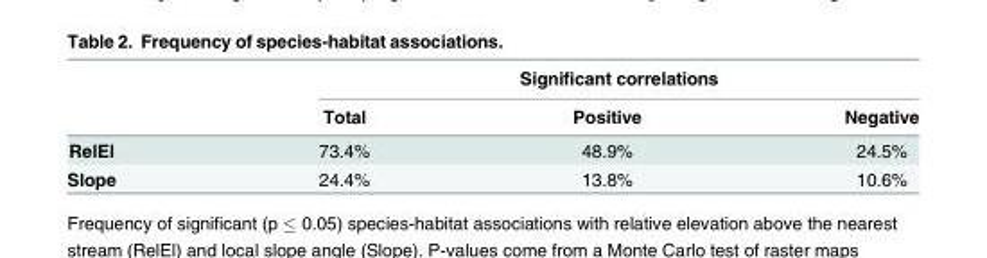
<table><thead><tr><td rowspan="2"></td><td colspan="3">Significant correlations</td></tr><tr><td>Total</td><td>Positive</td><td>Negative</td></tr></thead><tbody><tr><td>RelEl</td><td>73.4%</td><td>48.9%</td><td>24.5%</td></tr><tr><td>Slope</td><td>24.4%</td><td>13.8%</td><td>10.6%</td></tr></tbody></table>